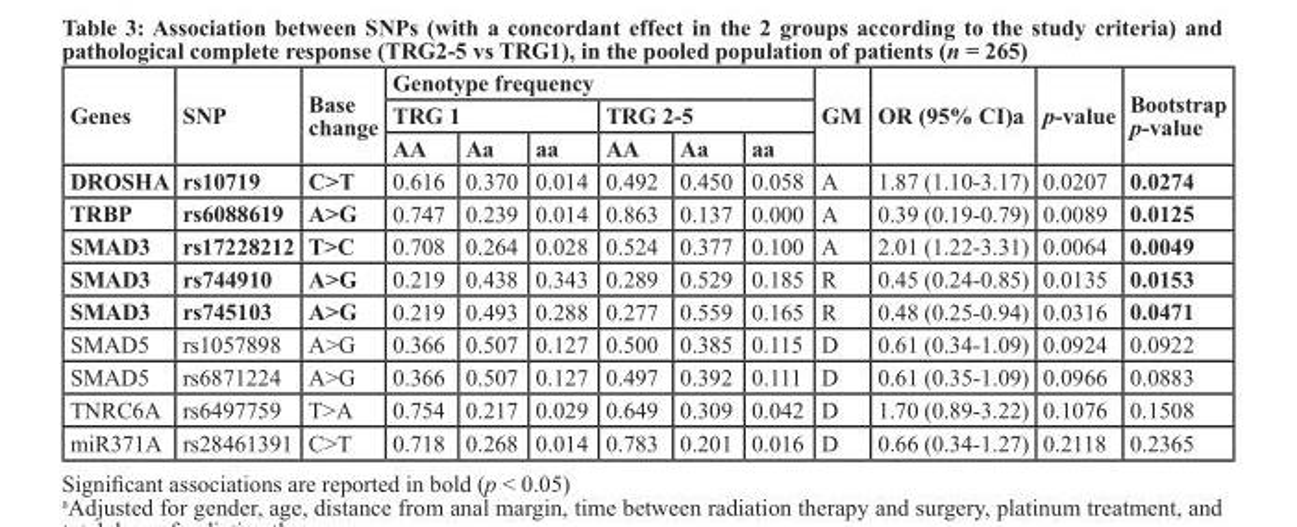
<table><thead><tr><td rowspan="3">Genes</td><td rowspan="3">SNP</td><td rowspan="3">Base change</td><td colspan="6">Genotype frequency</td><td rowspan="3">GM</td><td rowspan="3">OR (95% CI)<sup>a</sup></td><td rowspan="3">p-value</td><td rowspan="3">Bootstrap p-value</td></tr><tr><td colspan="3">TRG 1</td><td colspan="3">TRG 2-5</td></tr><tr><td>AA</td><td>Aa</td><td>aa</td><td>AA</td><td>Aa</td><td>aa</td></tr></thead><tbody><tr><td>DROSHA</td><td>rs10719</td><td>C&gt;T</td><td>0.616</td><td>0.370</td><td>0.014</td><td>0.492</td><td>0.450</td><td>0.058</td><td>A</td><td>1.87 (1.10-3.17)</td><td>0.0207</td><td>0.0274</td></tr><tr><td>TRBP</td><td>rs6088619</td><td>A&gt;G</td><td>0.747</td><td>0.239</td><td>0.014</td><td>0.863</td><td>0.137</td><td>0.000</td><td>A</td><td>0.39 (0.19-0.79)</td><td>0.0089</td><td>0.0125</td></tr><tr><td>SMAD3</td><td>rs17228212</td><td>T&gt;C</td><td>0.708</td><td>0.264</td><td>0.028</td><td>0.524</td><td>0.377</td><td>0.100</td><td>A</td><td>2.01 (1.22-3.31)</td><td>0.0064</td><td>0.0049</td></tr><tr><td>SMAD3</td><td>rs744910</td><td>A&gt;G</td><td>0.219</td><td>0.438</td><td>0.343</td><td>0.289</td><td>0.529</td><td>0.185</td><td>R</td><td>0.45 (0.24-0.85)</td><td>0.0135</td><td>0.0153</td></tr><tr><td>SMAD3</td><td>rs745103</td><td>A&gt;G</td><td>0.219</td><td>0.493</td><td>0.288</td><td>0.277</td><td>0.559</td><td>0.165</td><td>R</td><td>0.48 (0.25-0.94)</td><td>0.0316</td><td>0.0471</td></tr><tr><td>SMAD5</td><td>rs1057898</td><td>A&gt;G</td><td>0.366</td><td>0.507</td><td>0.127</td><td>0.500</td><td>0.385</td><td>0.115</td><td>D</td><td>0.61 (0.34-1.09)</td><td>0.0924</td><td>0.0922</td></tr><tr><td>SMAD5</td><td>rs6871224</td><td>A&gt;G</td><td>0.366</td><td>0.507</td><td>0.127</td><td>0.497</td><td>0.392</td><td>0.111</td><td>D</td><td>0.61 (0.35-1.09)</td><td>0.0966</td><td>0.0883</td></tr><tr><td>TNRC6A</td><td>rs6497759</td><td>T&gt;A</td><td>0.754</td><td>0.217</td><td>0.029</td><td>0.649</td><td>0.309</td><td>0.042</td><td>D</td><td>1.70 (0.89-3.22)</td><td>0.1076</td><td>0.1508</td></tr><tr><td>miR371A</td><td>rs28461391</td><td>C&gt;T</td><td>0.718</td><td>0.268</td><td>0.014</td><td>0.783</td><td>0.201</td><td>0.016</td><td>D</td><td>0.66 (0.34-1.27)</td><td>0.2118</td><td>0.2365</td></tr></tbody></table>